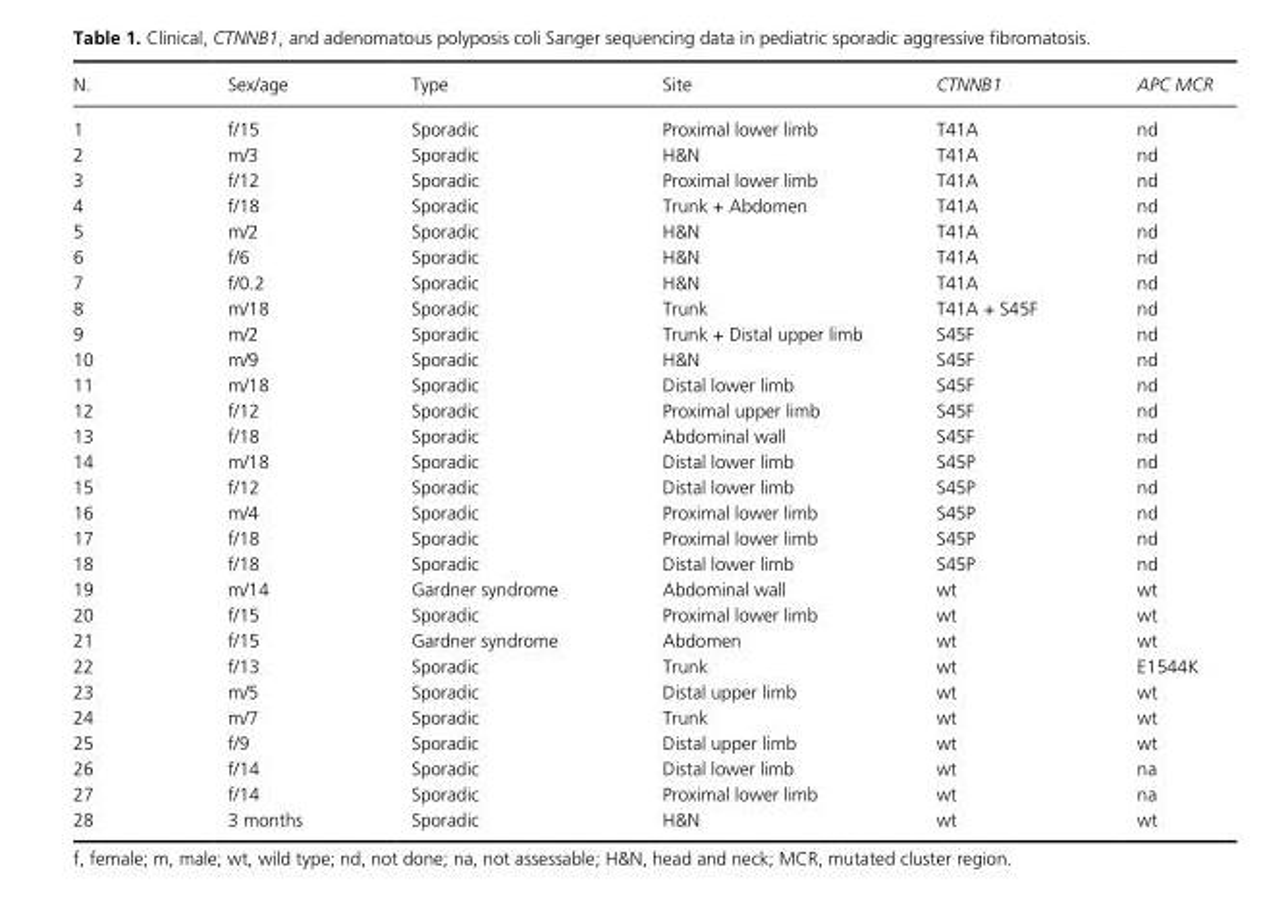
<table><thead><tr><td>N.</td><td>Sex/age</td><td>Type</td><td>Site</td><td>CTNNB1</td><td>APC MCR</td></tr></thead><tbody><tr><td>1</td><td>f/15</td><td>Sporadic</td><td>Proximal lower limb</td><td>T41A</td><td>nd</td></tr><tr><td>2</td><td>m/3</td><td>Sporadic</td><td>H&amp;N</td><td>T41A</td><td>nd</td></tr><tr><td>3</td><td>f/12</td><td>Sporadic</td><td>Proximal lower limb</td><td>T41A</td><td>nd</td></tr><tr><td>4</td><td>f/18</td><td>Sporadic</td><td>Trunk + Abdomen</td><td>T41A</td><td>nd</td></tr><tr><td>5</td><td>m/2</td><td>Sporadic</td><td>H&amp;N</td><td>T41A</td><td>nd</td></tr><tr><td>6</td><td>f/6</td><td>Sporadic</td><td>H&amp;N</td><td>T41A</td><td>nd</td></tr><tr><td>7</td><td>f/0.2</td><td>Sporadic</td><td>H&amp;N</td><td>T41A</td><td>nd</td></tr><tr><td>8</td><td>m/18</td><td>Sporadic</td><td>Trunk</td><td>T41A + S45F</td><td>nd</td></tr><tr><td>9</td><td>m/2</td><td>Sporadic</td><td>Trunk + Distal upper limb</td><td>S45F</td><td>nd</td></tr><tr><td>10</td><td>m/9</td><td>Sporadic</td><td>H&amp;N</td><td>S45F</td><td>nd</td></tr><tr><td>11</td><td>m/18</td><td>Sporadic</td><td>Distal lower limb</td><td>S45F</td><td>nd</td></tr><tr><td>12</td><td>f/12</td><td>Sporadic</td><td>Proximal upper limb</td><td>S45F</td><td>nd</td></tr><tr><td>13</td><td>f/18</td><td>Sporadic</td><td>Abdominal wall</td><td>S45F</td><td>nd</td></tr><tr><td>14</td><td>m/18</td><td>Sporadic</td><td>Distal lower limb</td><td>S45P</td><td>nd</td></tr><tr><td>15</td><td>f/12</td><td>Sporadic</td><td>Distal lower limb</td><td>S45P</td><td>nd</td></tr><tr><td>16</td><td>m/4</td><td>Sporadic</td><td>Proximal lower limb</td><td>S45P</td><td>nd</td></tr><tr><td>17</td><td>f/18</td><td>Sporadic</td><td>Proximal lower limb</td><td>S45P</td><td>nd</td></tr><tr><td>18</td><td>f/18</td><td>Sporadic</td><td>Distal lower limb</td><td>S45P</td><td>nd</td></tr><tr><td>19</td><td>m/14</td><td>Gardner syndrome</td><td>Abdominal wall</td><td>wt</td><td>wt</td></tr><tr><td>20</td><td>f/15</td><td>Sporadic</td><td>Proximal lower limb</td><td>wt</td><td>wt</td></tr><tr><td>21</td><td>f/15</td><td>Gardner syndrome</td><td>Abdomen</td><td>wt</td><td>wt</td></tr><tr><td>22</td><td>f/13</td><td>Sporadic</td><td>Trunk</td><td>wt</td><td>E1544K</td></tr><tr><td>23</td><td>m/5</td><td>Sporadic</td><td>Distal upper limb</td><td>wt</td><td>wt</td></tr><tr><td>24</td><td>m/7</td><td>Sporadic</td><td>Trunk</td><td>wt</td><td>wt</td></tr><tr><td>25</td><td>f/9</td><td>Sporadic</td><td>Distal upper limb</td><td>wt</td><td>wt</td></tr><tr><td>26</td><td>f/14</td><td>Sporadic</td><td>Distal lower limb</td><td>wt</td><td>na</td></tr><tr><td>27</td><td>f/14</td><td>Sporadic</td><td>Proximal lower limb</td><td>wt</td><td>na</td></tr><tr><td>28</td><td>3 months</td><td>Sporadic</td><td>H&amp;N</td><td>wt</td><td>wt</td></tr></tbody></table>